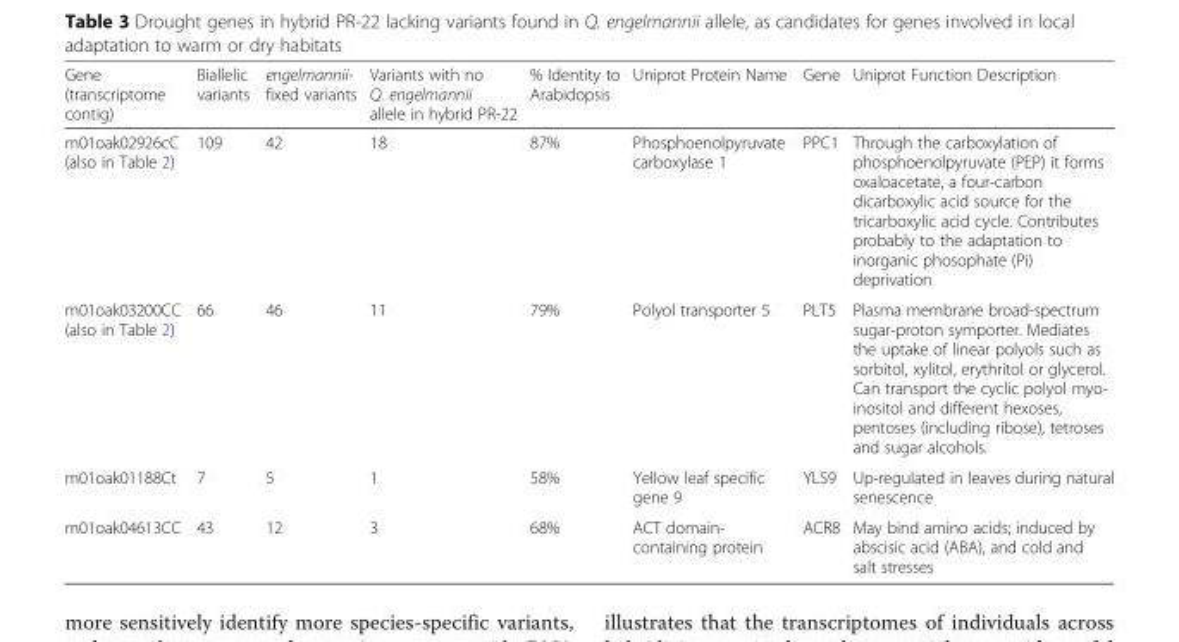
<table><thead><tr><td>Gene (transcriptome contig)</td><td>Biallelic variants</td><td>engelmannii- fixed variants</td><td>Variants with no Q. engelmannii allele in hybrid PR-22</td><td>% Identity to Arabidopsis</td><td>Uniprot Protein Name</td><td>Gene</td><td>Uniprot Function Description</td></tr></thead><tbody><tr><td>m01oak02926cC (also in Table 2)</td><td>109</td><td>42</td><td>18</td><td>87%</td><td>Phosphoenolpyruvate carboxylase 1</td><td>PPC1</td><td>Through the carboxylation of phosphoenolpyruvate (PEP) it forms oxaloacetate, a four-carbon dicarboxylic acid source for the tricarboxylic acid cycle. Contributes probably to the adaptation to inorganic phosophate (Pi) deprivation</td></tr><tr><td>m01oak03200CC (also in Table 2)</td><td>66</td><td>46</td><td>11</td><td>79%</td><td>Polyol transporter 5</td><td>PLT5</td><td>Plasma membrane broad-spectrum sugar-proton symporter. Mediates the uptake of linear polyols such as sorbitol, xylitol, erythritol or glycerol. Can transport the cyclic polyol myo- inositol and different hexoses, pentoses (including ribose), tetroses and sugar alcohols.</td></tr><tr><td>m01oak01188Ct</td><td>7</td><td>5</td><td>1</td><td>58%</td><td>Yellow leaf specific gene 9</td><td>YLS9</td><td>Up-regulated in leaves during natural senescence</td></tr><tr><td>m01oak04613CC</td><td>43</td><td>12</td><td>3</td><td>68%</td><td>ACT domain- containing protein</td><td>ACR8</td><td>May bind amino acids; induced by abscisic acid (ABA), and cold and salt stresses</td></tr></tbody></table>